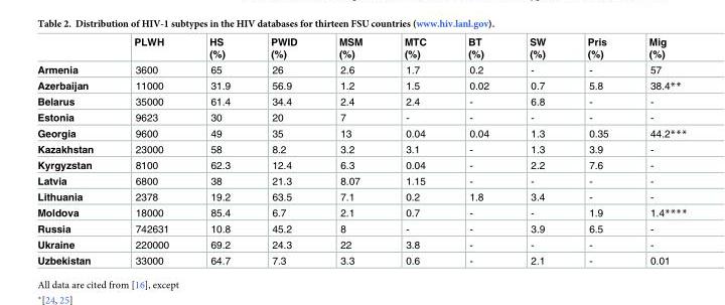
<table><thead><tr><td></td><td>PLWH</td><td>HS (%)</td><td>PWID (%)</td><td>MSM (%)</td><td>MTC (%)</td><td>BT (%)</td><td>SW (%)</td><td>Pris (%)</td><td>Mig (%)</td></tr></thead><tbody><tr><td>Armenia</td><td>3600</td><td>65</td><td>26</td><td>2.6</td><td>1.7</td><td>0.2</td><td>-</td><td>-</td><td>57</td></tr><tr><td>Azerbaijan</td><td>11000</td><td>31.9</td><td>56.9</td><td>1.2</td><td>1.5</td><td>0.02</td><td>0.7</td><td>5.8</td><td>38.4**</td></tr><tr><td>Belarus</td><td>35000</td><td>61.4</td><td>34.4</td><td>2.4</td><td>2.4</td><td>-</td><td>6.8</td><td>-</td><td>-</td></tr><tr><td>Estonia</td><td>9623</td><td>30</td><td>20</td><td>7</td><td>-</td><td>-</td><td>-</td><td>-</td><td>-</td></tr><tr><td>Georgia</td><td>9600</td><td>49</td><td>35</td><td>13</td><td>0.04</td><td>0.04</td><td>1.3</td><td>0.35</td><td>44.2***</td></tr><tr><td>Kazakhstan</td><td>23000</td><td>58</td><td>8.2</td><td>3.2</td><td>3.1</td><td>-</td><td>1.3</td><td>3.9</td><td>-</td></tr><tr><td>Kyrgyzstan</td><td>8100</td><td>62.3</td><td>12.4</td><td>6.3</td><td>0.04</td><td>-</td><td>2.2</td><td>7.6</td><td>-</td></tr><tr><td>Latvia</td><td>6800</td><td>38</td><td>21.3</td><td>8.07</td><td>1.15</td><td>-</td><td>-</td><td>-</td><td>-</td></tr><tr><td>Lithuania</td><td>2378</td><td>19.2</td><td>63.5</td><td>7.1</td><td>0.2</td><td>1.8</td><td>3.4</td><td>-</td><td>-</td></tr><tr><td>Moldova</td><td>18000</td><td>85.4</td><td>6.7</td><td>2.1</td><td>0.7</td><td>-</td><td>-</td><td>1.9</td><td>1.4****</td></tr><tr><td>Russia</td><td>742631</td><td>10.8</td><td>45.2</td><td>8</td><td>-</td><td>-</td><td>3.9</td><td>6.5</td><td>-</td></tr><tr><td>Ukraine</td><td>220000</td><td>69.2</td><td>24.3</td><td>22</td><td>3.8</td><td>-</td><td>-</td><td>-</td><td>-</td></tr><tr><td>Uzbekistan</td><td>33000</td><td>64.7</td><td>7.3</td><td>3.3</td><td>0.6</td><td>-</td><td>2.1</td><td>-</td><td>0.01</td></tr></tbody></table>